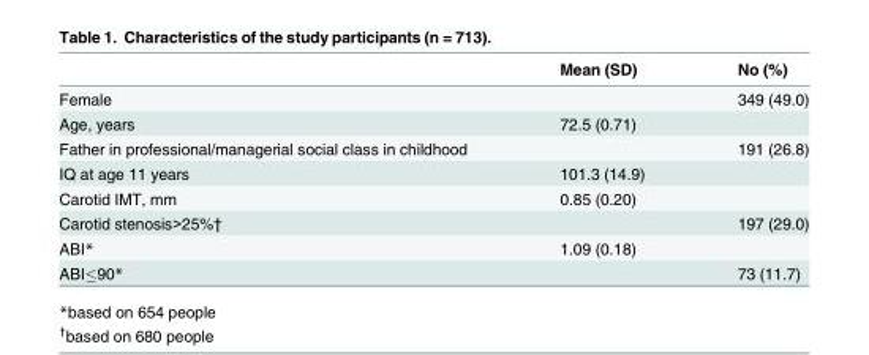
<table><thead><tr><td></td><td>Mean (SD)</td><td>No (%)</td></tr></thead><tbody><tr><td>Female</td><td></td><td>349 (49.0)</td></tr><tr><td>Age, years</td><td>72.5 (0.71)</td><td></td></tr><tr><td>Father in professional/managerial social class in childhood</td><td></td><td>191 (26.8)</td></tr><tr><td>IQ at age 11 years</td><td>101.3 (14.9)</td><td></td></tr><tr><td>Carotid IMT, mm</td><td>0.85 (0.20)</td><td></td></tr><tr><td>Carotid stenosis&gt;25%†</td><td></td><td>197 (29.0)</td></tr><tr><td>ABI*</td><td>1.09 (0.18)</td><td></td></tr><tr><td>ABI≤90*</td><td></td><td>73 (11.7)</td></tr></tbody></table>